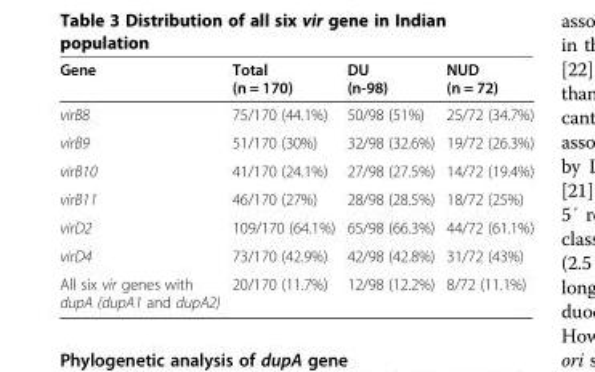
<table><thead><tr><td>Gene</td><td>Total (n = 170)</td><td>DU (n-98)</td><td>NUD (n = 72)</td></tr></thead><tbody><tr><td>virB8</td><td>75/170 (44.1%)</td><td>50/98 (51%)</td><td>25/72 (34.7%)</td></tr><tr><td>virB9</td><td>51/170 (30%)</td><td>32/98 (32.6%)</td><td>19/72 (26.3%)</td></tr><tr><td>virB10</td><td>41/170 (24.1%)</td><td>27/98 (27.5%)</td><td>14/72 (19.4%)</td></tr><tr><td>virB11</td><td>46/170 (27%)</td><td>28/98 (28.5%)</td><td>18/72 (25%)</td></tr><tr><td>virD2</td><td>109/170 (64.1%)</td><td>65/98 (66.3%)</td><td>44/72 (61.1%)</td></tr><tr><td>virD4</td><td>73/170 (42.9%)</td><td>42/98 (42.8%)</td><td>31/72 (43%)</td></tr><tr><td>All six vir genes with dupA (dupA1 and dupA2)</td><td>20/170 (11.7%)</td><td>12/98 (12.2%)</td><td>8/72 (11.1%)</td></tr></tbody></table>